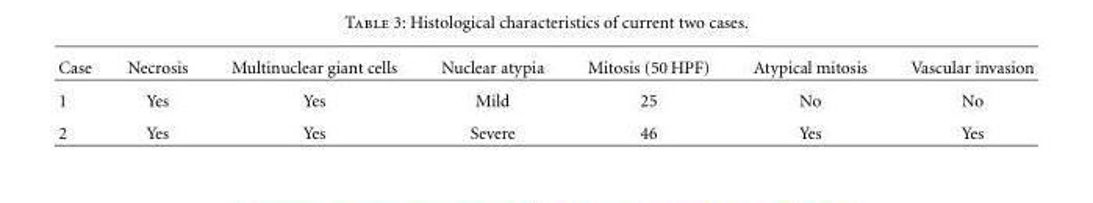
<table><thead><tr><td>Case</td><td>Necrosis</td><td>Multinuclear giant cells</td><td>Nuclear atypia</td><td>Mitosis (50 HPF)</td><td>Atypical mitosis</td><td>Vascular invasion</td></tr></thead><tbody><tr><td>1</td><td>Yes</td><td>Yes</td><td>Mild</td><td>25</td><td>No</td><td>No</td></tr><tr><td>2</td><td>Yes</td><td>Yes</td><td>Severe</td><td>46</td><td>Yes</td><td>Yes</td></tr></tbody></table>